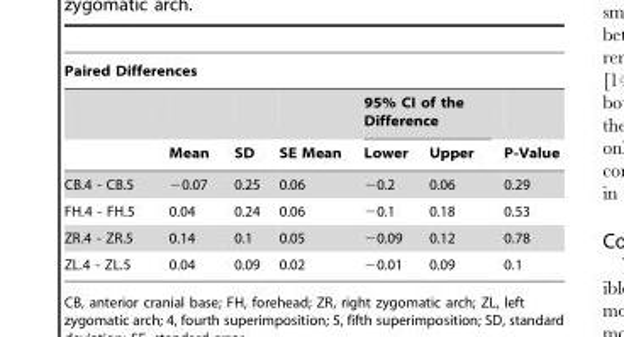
<table><thead><tr><td colspan="7">Paired Differences</td></tr><tr><td rowspan="2"></td><td rowspan="2">Mean</td><td rowspan="2">SD</td><td rowspan="2">SE Mean</td><td colspan="2">95% CI of the Difference</td><td rowspan="2">P-Value</td></tr><tr><td>Lower</td><td>Upper</td></tr></thead><tbody><tr><td>CB.4 - CB.5</td><td>−0.07</td><td>0.25</td><td>0.06</td><td>−0.2</td><td>0.06</td><td>0.29</td></tr><tr><td>FH.4 - FH.5</td><td>0.04</td><td>0.24</td><td>0.06</td><td>−0.1</td><td>0.18</td><td>0.53</td></tr><tr><td>ZR.4 - ZR.5</td><td>0.14</td><td>0.1</td><td>0.05</td><td>−0.09</td><td>0.12</td><td>0.78</td></tr><tr><td>ZL.4 - ZL.5</td><td>0.04</td><td>0.09</td><td>0.02</td><td>−0.01</td><td>0.09</td><td>0.1</td></tr></tbody></table>